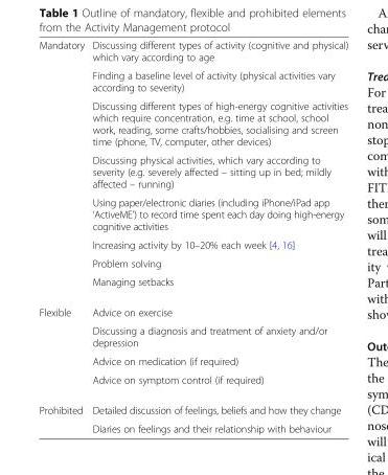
<table><tbody><tr><td rowspan="8">Mandatory</td><td>Discussing different types of activity (cognitive and physical) which vary according to age</td></tr><tr><td>Finding a baseline level of activity (physical activities vary according to severity)</td></tr><tr><td>Discussing different types of high-energy cognitive activities which require concentration, e.g. time at school, school work, reading, some crafts/hobbies, socialising and screen time (phone, TV, computer, other devices)</td></tr><tr><td>Discussing physical activities, which vary according to severity (e.g. severely affected – sitting up in bed; mildly affected – running)</td></tr><tr><td>Using paper/electronic diaries (including iPhone/iPad app ‘ActiveME’) to record time spent each day doing high-energy cognitive activities</td></tr><tr><td>Increasing activity by 10–20% each week [4, 16]</td></tr><tr><td>Problem solving</td></tr><tr><td>Managing setbacks</td></tr><tr><td rowspan="4">Flexible</td><td>Advice on exercise</td></tr><tr><td>Discussing a diagnosis and treatment of anxiety and/or depression</td></tr><tr><td>Advice on medication (if required)</td></tr><tr><td>Advice on symptom control (if required)</td></tr><tr><td rowspan="2">Prohibited</td><td>Detailed discussion of feelings, beliefs and how they change</td></tr><tr><td>Diaries on feelings and their relationship with behaviour</td></tr></tbody></table>